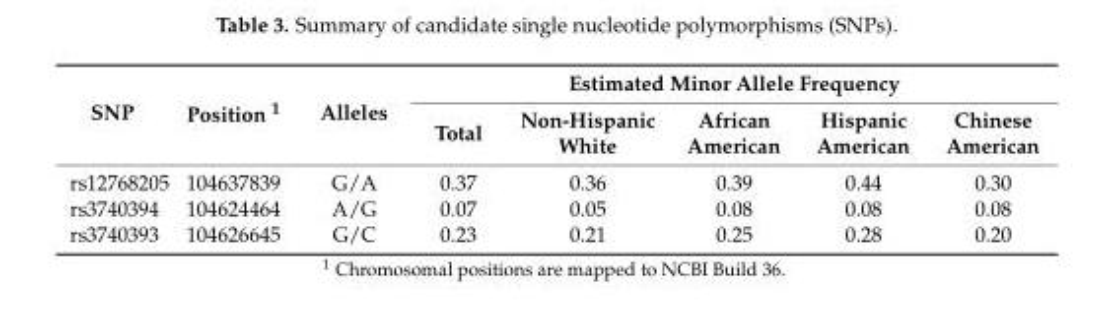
<table><thead><tr><td rowspan="2">SNP</td><td rowspan="2">Position <sup>1</sup></td><td rowspan="2">Alleles</td><td colspan="5">Estimated Minor Allele Frequency</td></tr><tr><td>Total</td><td>Non-Hispanic White</td><td>African American</td><td>Hispanic American</td><td>Chinese American</td></tr></thead><tbody><tr><td>rs12768205</td><td>104637839</td><td>G/A</td><td>0.37</td><td>0.36</td><td>0.39</td><td>0.44</td><td>0.30</td></tr><tr><td>rs3740394</td><td>104624464</td><td>A/G</td><td>0.07</td><td>0.05</td><td>0.08</td><td>0.08</td><td>0.08</td></tr><tr><td>rs3740393</td><td>104626645</td><td>G/C</td><td>0.23</td><td>0.21</td><td>0.25</td><td>0.28</td><td>0.20</td></tr></tbody></table>